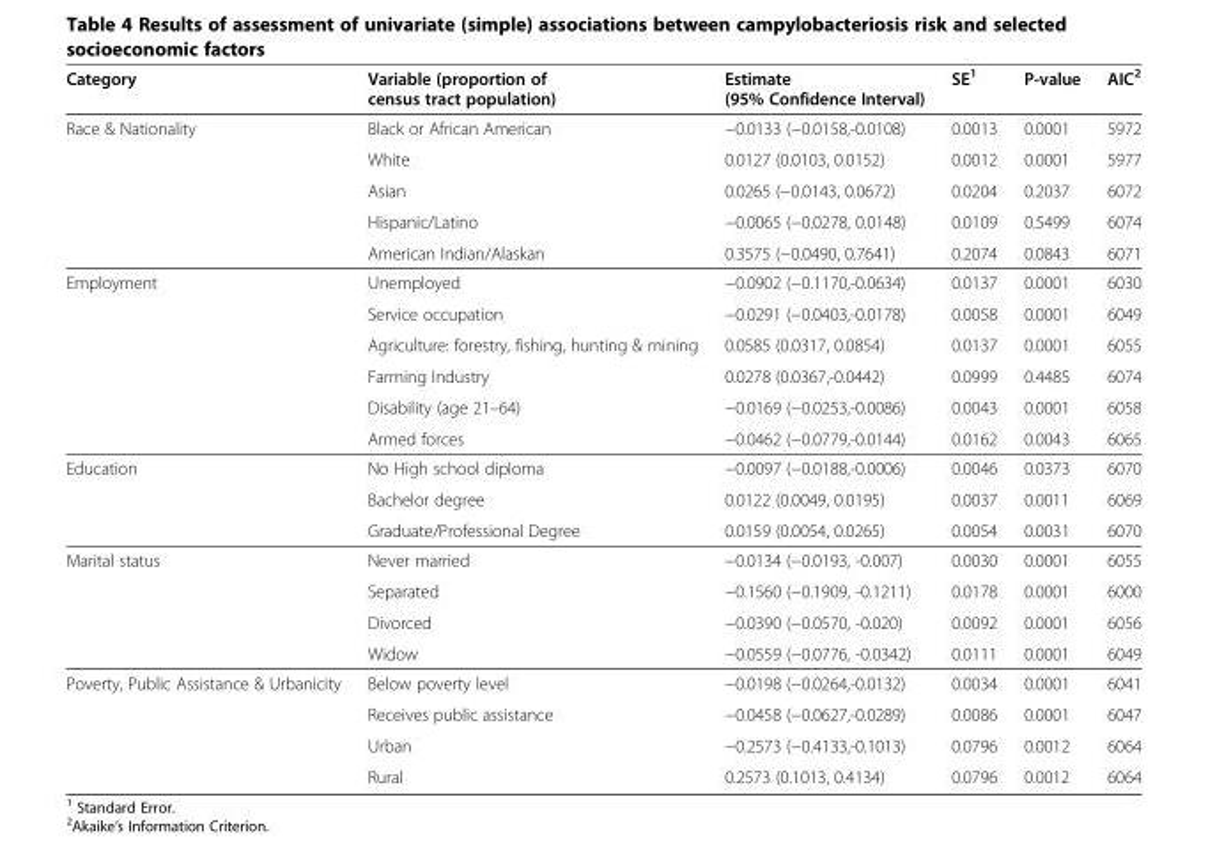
<table><thead><tr><td>Category</td><td>Variable (proportion of census tract population)</td><td>Estimate (95% Confidence Interval)</td><td>SE<sup>1</sup></td><td>P-value</td><td>AIC<sup>2</sup></td></tr></thead><tbody><tr><td rowspan="5">Race &amp; Nationality</td><td>Black or African American</td><td>−0.0133 (−0.0158,-0.0108)</td><td>0.0013</td><td>0.0001</td><td>5972</td></tr><tr><td>White</td><td>0.0127 (0.0103, 0.0152)</td><td>0.0012</td><td>0.0001</td><td>5977</td></tr><tr><td>Asian</td><td>0.0265 (−0.0143, 0.0672)</td><td>0.0204</td><td>0.2037</td><td>6072</td></tr><tr><td>Hispanic/Latino</td><td>−0.0065 (−0.0278, 0.0148)</td><td>0.0109</td><td>0.5499</td><td>6074</td></tr><tr><td>American Indian/Alaskan</td><td>0.3575 (−0.0490, 0.7641)</td><td>0.2074</td><td>0.0843</td><td>6071</td></tr><tr><td rowspan="6">Employment</td><td>Unemployed</td><td>−0.0902 (−0.1170,-0.0634)</td><td>0.0137</td><td>0.0001</td><td>6030</td></tr><tr><td>Service occupation</td><td>−0.0291 (−0.0403,-0.0178)</td><td>0.0058</td><td>0.0001</td><td>6049</td></tr><tr><td>Agriculture: forestry, fishing, hunting &amp; mining</td><td>0.0585 (0.0317, 0.0854)</td><td>0.0137</td><td>0.0001</td><td>6055</td></tr><tr><td>Farming Industry</td><td>0.0278 (0.0367,-0.0442)</td><td>0.0999</td><td>0.4485</td><td>6074</td></tr><tr><td>Disability (age 21–64)</td><td>−0.0169 (−0.0253,-0.0086)</td><td>0.0043</td><td>0.0001</td><td>6058</td></tr><tr><td>Armed forces</td><td>−0.0462 (−0.0779,-0.0144)</td><td>0.0162</td><td>0.0043</td><td>6065</td></tr><tr><td rowspan="3">Education</td><td>No High school diploma</td><td>−0.0097 (−0.0188,-0.0006)</td><td>0.0046</td><td>0.0373</td><td>6070</td></tr><tr><td>Bachelor degree</td><td>0.0122 (0.0049, 0.0195)</td><td>0.0037</td><td>0.0011</td><td>6069</td></tr><tr><td>Graduate/Professional Degree</td><td>0.0159 (0.0054, 0.0265)</td><td>0.0054</td><td>0.0031</td><td>6070</td></tr><tr><td rowspan="4">Marital status</td><td>Never married</td><td>−0.0134 (−0.0193, -0.007)</td><td>0.0030</td><td>0.0001</td><td>6055</td></tr><tr><td>Separated</td><td>−0.1560 (−0.1909, -0.1211)</td><td>0.0178</td><td>0.0001</td><td>6000</td></tr><tr><td>Divorced</td><td>−0.0390 (−0.0570, -0.020)</td><td>0.0092</td><td>0.0001</td><td>6056</td></tr><tr><td>Widow</td><td>−0.0559 (−0.0776, -0.0342)</td><td>0.0111</td><td>0.0001</td><td>6049</td></tr><tr><td rowspan="4">Poverty, Public Assistance &amp; Urbanicity</td><td>Below poverty level</td><td>−0.0198 (−0.0264,-0.0132)</td><td>0.0034</td><td>0.0001</td><td>6041</td></tr><tr><td>Receives public assistance</td><td>−0.0458 (−0.0627,-0.0289)</td><td>0.0086</td><td>0.0001</td><td>6047</td></tr><tr><td>Urban</td><td>−0.2573 (−0.4133,-0.1013)</td><td>0.0796</td><td>0.0012</td><td>6064</td></tr><tr><td>Rural</td><td>0.2573 (0.1013, 0.4134)</td><td>0.0796</td><td>0.0012</td><td>6064</td></tr></tbody></table>